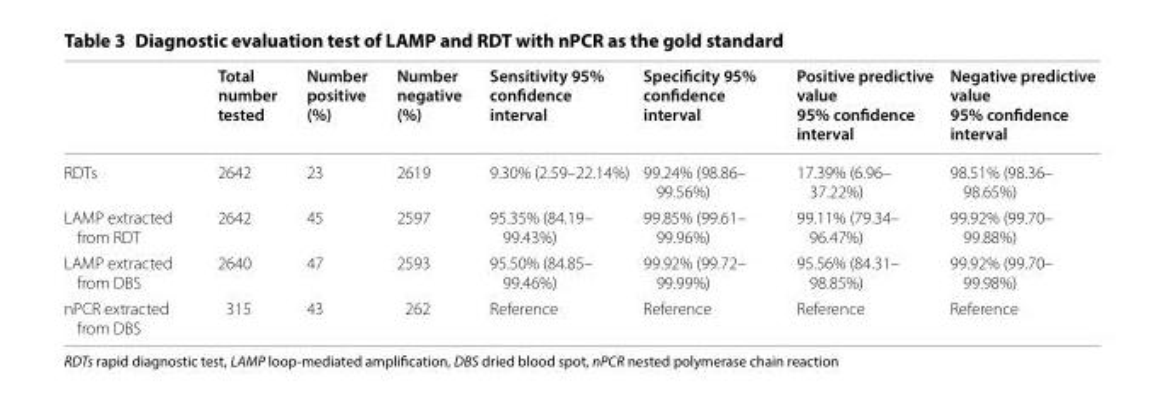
<table><thead><tr><td></td><td>Total number tested</td><td>Number positive (%)</td><td>Number negative (%)</td><td>Sensitivity 95% confidence interval</td><td>Specificity 95% confidence interval</td><td>Positive predictive value 95% confidence interval</td><td>Negative predictive value 95% confidence interval</td></tr></thead><tbody><tr><td>RDTs</td><td>2642</td><td>23</td><td>2619</td><td>9.30% (2.59–22.14%)</td><td>99.24% (98.86– 99.56%)</td><td>17.39% (6.96– 37.22%)</td><td>98.51% (98.36– 98.65%)</td></tr><tr><td>LAMP extracted from RDT</td><td>2642</td><td>45</td><td>2597</td><td>95.35% (84.19– 99.43%)</td><td>99.85% (99.61– 99.96%)</td><td>99.11% (79.34– 96.47%)</td><td>99.92% (99.70– 99.88%)</td></tr><tr><td>LAMP extracted from DBS</td><td>2640</td><td>47</td><td>2593</td><td>95.50% (84.85– 99.46%)</td><td>99.92% (99.72– 99.99%)</td><td>95.56% (84.31– 98.85%)</td><td>99.92% (99.70– 99.98%)</td></tr><tr><td>nPCR extracted from DBS</td><td>315</td><td>43</td><td>262</td><td>Reference</td><td>Reference</td><td>Reference</td><td>Reference</td></tr></tbody></table>